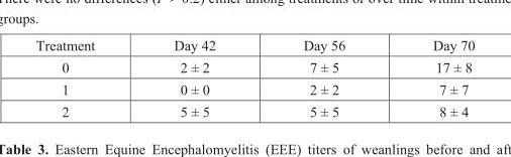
<table><tbody><tr><td>Treatment</td><td>Day 42</td><td>Day 56</td><td>Day 70</td></tr><tr><td>0</td><td>2 ± 2</td><td>7 ± 5</td><td>17 ± 8</td></tr><tr><td>1</td><td>0 ± 0</td><td>2 ± 2</td><td>7 ± 7</td></tr><tr><td>2</td><td>5 ± 5</td><td>5 ± 5</td><td>8 ± 4</td></tr></tbody></table>